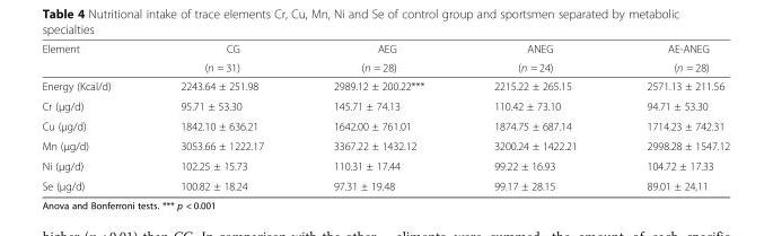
<table><thead><tr><td rowspan="2">Element</td><td rowspan="2">CG (n = 31)</td><td rowspan="2">AEG (n = 28)</td><td rowspan="2">ANEG (n = 24)</td><td rowspan="2">AE-ANEG (n = 28)</td></tr><tr></tr></thead><tbody><tr><td>Energy (Kcal/d)</td><td>2243.64 ± 251.98</td><td>2989.12 ± 200.22***</td><td>2215.22 ± 265.15</td><td>2571.13 ± 211.56</td></tr><tr><td>Cr (μg/d)</td><td>95.71 ± 53.30</td><td>145.71 ± 74.13</td><td>110.42 ± 73.10</td><td>94.71 ± 53.30</td></tr><tr><td>Cu (μg/d)</td><td>1842.10 ± 636.21</td><td>1642.00 ± 761.01</td><td>1874.75 ± 687.14</td><td>1714.23 ± 742.31</td></tr><tr><td>Mn (μg/d)</td><td>3053.66 ± 1222.17</td><td>3367.22 ± 1432.12</td><td>3200.24 ± 1422.21</td><td>2998.28 ± 1547.12</td></tr><tr><td>Ni (μg/d)</td><td>102.25 ± 15.73</td><td>110.31 ± 17.44</td><td>99.22 ± 16.93</td><td>104.72 ± 17.33</td></tr><tr><td>Se (μg/d)</td><td>100.82 ± 18.24</td><td>97.31 ± 19.48</td><td>99.17 ± 28.15</td><td>89.01 ± 24,11</td></tr></tbody></table>